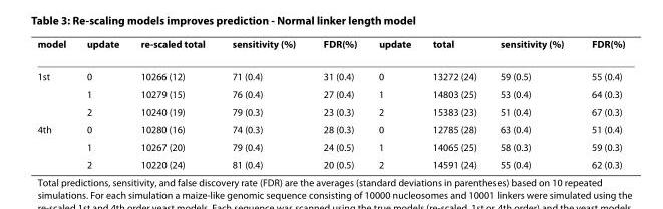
<table><thead><tr><td>model</td><td>update</td><td>re-scaled total</td><td>sensitivity (%)</td><td>FDR(%)</td><td>update</td><td>total</td><td>sensitivity (%)</td><td>FDR(%)</td></tr></thead><tbody><tr><td rowspan="3">1st</td><td>0</td><td>10266 (12)</td><td>71 (0.4)</td><td>31 (0.4)</td><td>0</td><td>13272 (24)</td><td>59 (0.5)</td><td>55 (0.4)</td></tr><tr><td>1</td><td>10279 (15)</td><td>76 (0.4)</td><td>27 (0.4)</td><td>1</td><td>14803 (25)</td><td>53 (0.4)</td><td>64 (0.3)</td></tr><tr><td>2</td><td>10240 (19)</td><td>79 (0.3)</td><td>23 (0.3)</td><td>2</td><td>15383 (23)</td><td>51 (0.4)</td><td>67 (0.3)</td></tr><tr><td rowspan="3">4th</td><td>0</td><td>10280 (16)</td><td>74 (0.3)</td><td>28 (0.3)</td><td>0</td><td>12785 (28)</td><td>63 (0.4)</td><td>51 (0.4)</td></tr><tr><td>1</td><td>10267 (20)</td><td>79 (0.4)</td><td>24 (0.5)</td><td>1</td><td>14065 (25)</td><td>58 (0.3)</td><td>59 (0.3)</td></tr><tr><td>2</td><td>10220 (24)</td><td>81 (0.4)</td><td>20 (0.5)</td><td>2</td><td>14591 (24)</td><td>55 (0.4)</td><td>62 (0.3)</td></tr></tbody></table>